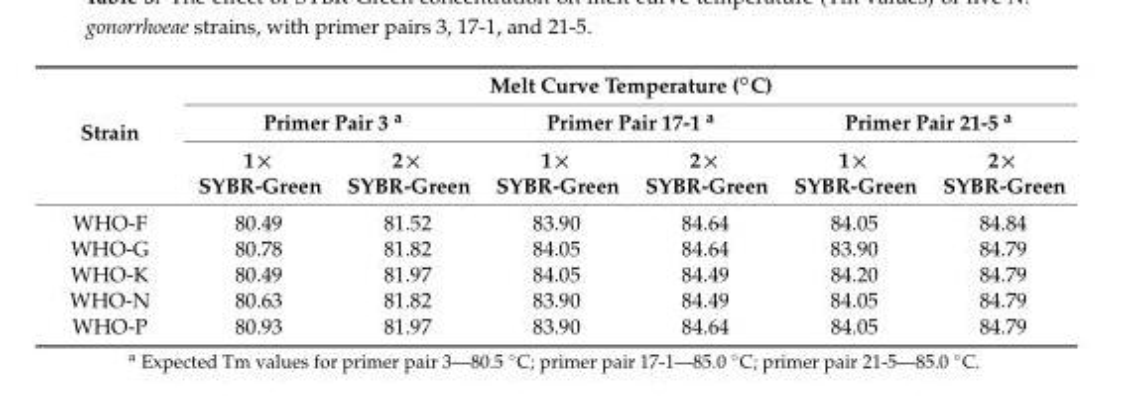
<table><thead><tr><td rowspan="3">Strain</td><td colspan="6">Melt Curve Temperature (◦C)</td></tr><tr><td colspan="2">Primer Pair 3 <sup>a</sup></td><td colspan="2">Primer Pair 17-1 <sup>a</sup></td><td colspan="2">Primer Pair 21-5 <sup>a</sup></td></tr><tr><td>1× SYBR-Green</td><td>2× SYBR-Green</td><td>1× SYBR-Green</td><td>2× SYBR-Green</td><td>1× SYBR-Green</td><td>2× SYBR-Green</td></tr></thead><tbody><tr><td>WHO-F</td><td>80.49</td><td>81.52</td><td>83.90</td><td>84.64</td><td>84.05</td><td>84.84</td></tr><tr><td>WHO-G</td><td>80.78</td><td>81.82</td><td>84.05</td><td>84.64</td><td>83.90</td><td>84.79</td></tr><tr><td>WHO-K</td><td>80.49</td><td>81.97</td><td>84.05</td><td>84.49</td><td>84.20</td><td>84.79</td></tr><tr><td>WHO-N</td><td>80.63</td><td>81.82</td><td>83.90</td><td>84.49</td><td>84.05</td><td>84.79</td></tr><tr><td>WHO-P</td><td>80.93</td><td>81.97</td><td>83.90</td><td>84.64</td><td>84.05</td><td>84.79</td></tr></tbody></table>